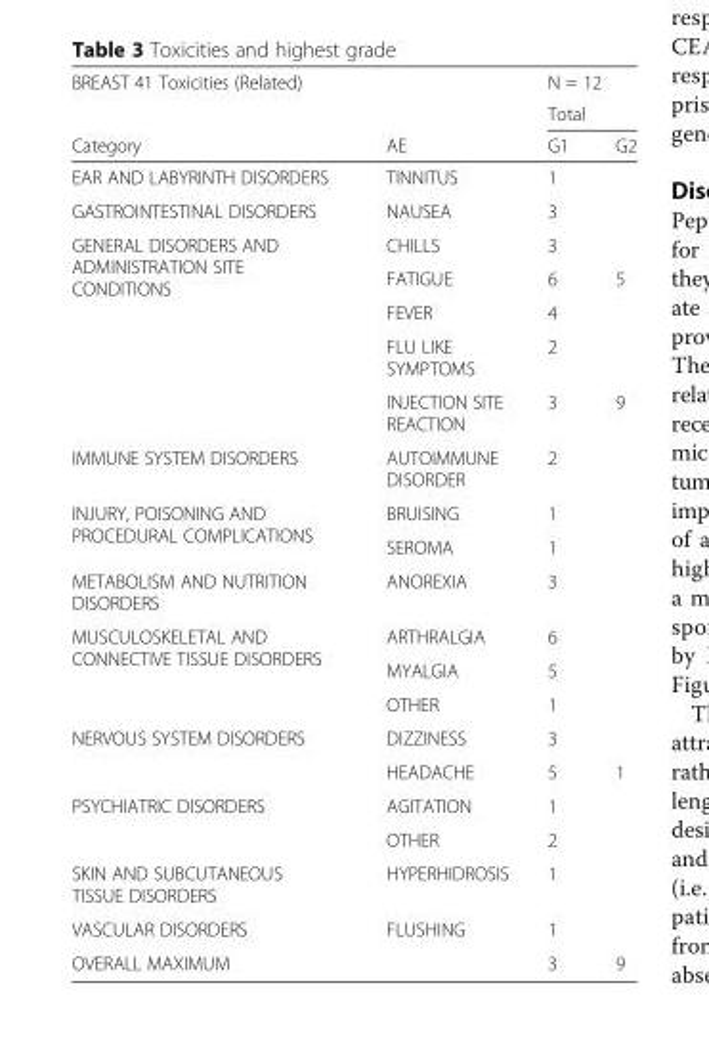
<table><thead><tr><td rowspan="3">BREAST 41 Toxicities (Related) Category</td><td rowspan="3">AE</td><td>N = 12</td><td></td></tr><tr><td colspan="2">Total</td></tr><tr><td>G1</td><td>G2</td></tr></thead><tbody><tr><td>EAR AND LABYRINTH DISORDERS</td><td>TINNITUS</td><td>1</td><td></td></tr><tr><td>GASTROINTESTINAL DISORDERS</td><td>NAUSEA</td><td>3</td><td></td></tr><tr><td rowspan="5">GENERAL DISORDERS AND ADMINISTRATION SITE CONDITIONS</td><td>CHILLS</td><td>3</td><td></td></tr><tr><td>FATIGUE</td><td>6</td><td>5</td></tr><tr><td>FEVER</td><td>4</td><td></td></tr><tr><td>FLU LIKE SYMPTOMS</td><td>2</td><td></td></tr><tr><td>INJECTION SITE REACTION</td><td>3</td><td>9</td></tr><tr><td>IMMUNE SYSTEM DISORDERS</td><td>AUTOIMMUNE DISORDER</td><td>2</td><td></td></tr><tr><td rowspan="2">INJURY, POISONING AND PROCEDURAL COMPLICATIONS</td><td>BRUISING</td><td>1</td><td></td></tr><tr><td>SEROMA</td><td>1</td><td></td></tr><tr><td>METABOLISM AND NUTRITION DISORDERS</td><td>ANOREXIA</td><td>3</td><td></td></tr><tr><td rowspan="3">MUSCULOSKELETAL AND CONNECTIVE TISSUE DISORDERS</td><td>ARTHRALGIA</td><td>6</td><td></td></tr><tr><td>MYALGIA</td><td>5</td><td></td></tr><tr><td>OTHER</td><td>1</td><td></td></tr><tr><td rowspan="2">NERVOUS SYSTEM DISORDERS</td><td>DIZZINESS</td><td>3</td><td></td></tr><tr><td>HEADACHE</td><td>5</td><td>1</td></tr><tr><td rowspan="2">PSYCHIATRIC DISORDERS</td><td>AGITATION</td><td>1</td><td></td></tr><tr><td>OTHER</td><td>2</td><td></td></tr><tr><td>SKIN AND SUBCUTANEOUS TISSUE DISORDERS</td><td>HYPERHIDROSIS</td><td>1</td><td></td></tr><tr><td>VASCULAR DISORDERS</td><td>FLUSHING</td><td>1</td><td></td></tr><tr><td>OVERALL MAXIMUM</td><td></td><td>3</td><td>9</td></tr></tbody></table>